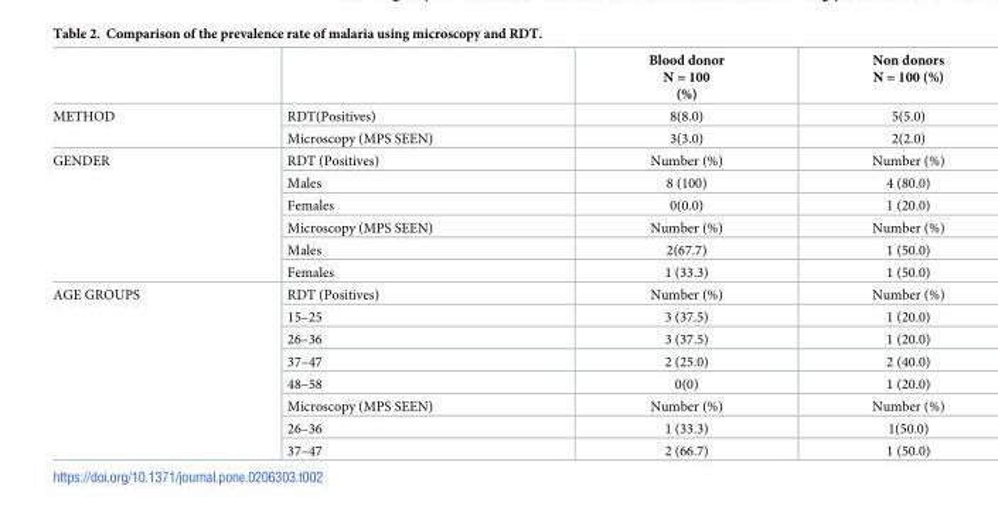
<table><thead><tr><td></td><td></td><td>Blood donor N = 100 (%)</td><td>Non donors N = 100 (%)</td></tr></thead><tbody><tr><td rowspan="2">METHOD</td><td>RDT(Positives)</td><td>8(8.0)</td><td>5(5.0)</td></tr><tr><td>Microscopy (MPS SEEN)</td><td>3(3.0)</td><td>2(2.0)</td></tr><tr><td rowspan="6">GENDER</td><td>RDT (Positives)</td><td>Number (%)</td><td>Number (%)</td></tr><tr><td>Males</td><td>8 (100)</td><td>4 (80.0)</td></tr><tr><td>Females</td><td>0(0.0)</td><td>1 (20.0)</td></tr><tr><td>Microscopy (MPS SEEN)</td><td>Number (%)</td><td>Number (%)</td></tr><tr><td>Males</td><td>2(67.7)</td><td>1 (50.0)</td></tr><tr><td>Females</td><td>1 (33.3)</td><td>1 (50.0)</td></tr><tr><td rowspan="8">AGE GROUPS</td><td>RDT (Positives)</td><td>Number (%)</td><td>Number (%)</td></tr><tr><td>15–25</td><td>3 (37.5)</td><td>1 (20.0)</td></tr><tr><td>26–36</td><td>3 (37.5)</td><td>1 (20.0)</td></tr><tr><td>37–47</td><td>2 (25.0)</td><td>2 (40.0)</td></tr><tr><td>48–58</td><td>0(0)</td><td>1 (20.0)</td></tr><tr><td>Microscopy (MPS SEEN)</td><td>Number (%)</td><td>Number (%)</td></tr><tr><td>26–36</td><td>1 (33.3)</td><td>1(50.0)</td></tr><tr><td>37–47</td><td>2 (66.7)</td><td>1 (50.0)</td></tr></tbody></table>